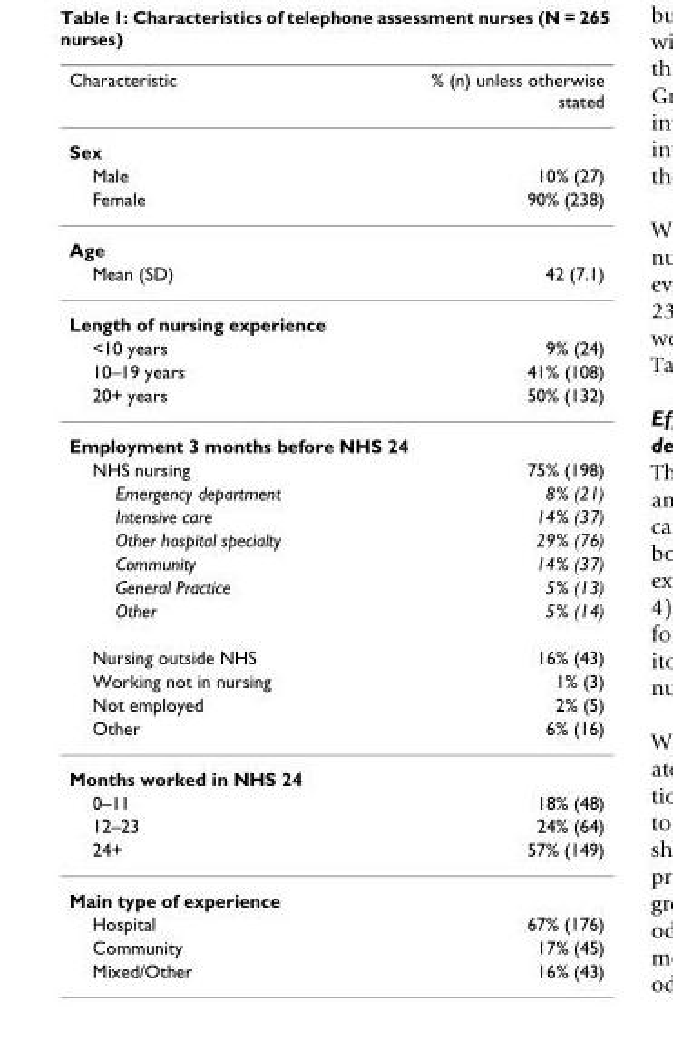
<table><thead><tr><td>Characteristic</td><td>% (n) unless otherwise stated</td></tr></thead><tbody><tr><td colspan="2">Sex</td></tr><tr><td>Male</td><td>10% (27)</td></tr><tr><td>Female</td><td>90% (238)</td></tr><tr><td colspan="2">Age</td></tr><tr><td>Mean (SD)</td><td>42 (7.1)</td></tr><tr><td colspan="2">Length of nursing experience</td></tr><tr><td>&lt;10 years</td><td>9% (24)</td></tr><tr><td>10–19 years</td><td>41% (108)</td></tr><tr><td>20+ years</td><td>50% (132)</td></tr><tr><td colspan="2">Employment 3 months before NHS 24</td></tr><tr><td>NHS nursing</td><td>75% (198)</td></tr><tr><td>Emergency department</td><td>8% (21)</td></tr><tr><td>Intensive care</td><td>14% (37)</td></tr><tr><td>Other hospital specialty</td><td>29% (76)</td></tr><tr><td>Community</td><td>14% (37)</td></tr><tr><td>General Practice</td><td>5% (13)</td></tr><tr><td>Other</td><td>5% (14)</td></tr><tr><td>Nursing outside NHS</td><td>16% (43)</td></tr><tr><td>Working not in nursing</td><td>1% (3)</td></tr><tr><td>Not employed</td><td>2% (5)</td></tr><tr><td>Other</td><td>6% (16)</td></tr><tr><td colspan="2">Months worked in NHS 24</td></tr><tr><td>0–11</td><td>18% (48)</td></tr><tr><td>12–23</td><td>24% (64)</td></tr><tr><td>24+</td><td>57% (149)</td></tr><tr><td colspan="2">Main type of experience</td></tr><tr><td>Hospital</td><td>67% (176)</td></tr><tr><td>Community</td><td>17% (45)</td></tr><tr><td>Mixed/Other</td><td>16% (43)</td></tr></tbody></table>